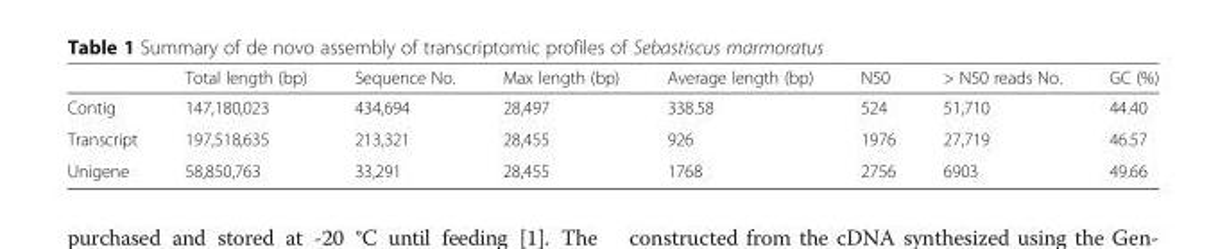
<table><thead><tr><td></td><td>Total length (bp)</td><td>Sequence No.</td><td>Max length (bp)</td><td>Average length (bp)</td><td>N50</td><td>&gt; N50 reads No.</td><td>GC (%)</td></tr></thead><tbody><tr><td>Contig</td><td>147,180,023</td><td>434,694</td><td>28,497</td><td>338.58</td><td>524</td><td>51,710</td><td>44.40</td></tr><tr><td>Transcript</td><td>197,518,635</td><td>213,321</td><td>28,455</td><td>926</td><td>1976</td><td>27,719</td><td>46.57</td></tr><tr><td>Unigene</td><td>58,850,763</td><td>33,291</td><td>28,455</td><td>1768</td><td>2756</td><td>6903</td><td>49.66</td></tr></tbody></table>